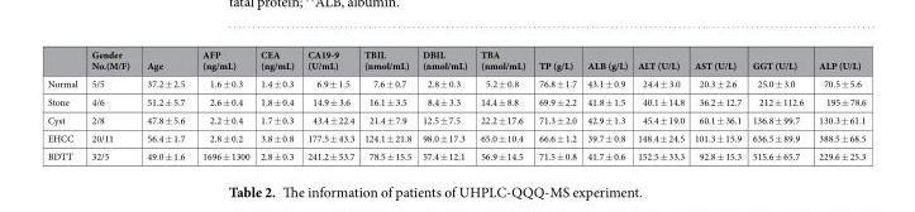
<table><thead><tr><td></td><td>Gender No.(M/F)</td><td>Age</td><td>AFP (ng/mL)</td><td>CEA (ng/mL)</td><td>CA19-9 (U/mL)</td><td>TBIL (nmol/mL)</td><td>DBIL (nmol/mL)</td><td>TBA (nmol/mL)</td><td>TP (g/L)</td><td>ALB (g/L)</td><td>ALT (U/L)</td><td>AST (U/L)</td><td>GGT (U/L)</td><td>ALP (U/L)</td></tr></thead><tbody><tr><td>Normal</td><td>5/5</td><td>37.2 ± 2.5</td><td>1.6 ± 0.3</td><td>1.4 ± 0.3</td><td>6.9 ± 1.5</td><td>7.6 ± 0.7</td><td>2.8 ± 0.3</td><td>5.2 ± 0.8</td><td>76.8 ± 1.7</td><td>43.1 ± 0.9</td><td>24.4 ± 3.0</td><td>20.3 ± 2.6</td><td>25.0 ± 3.0</td><td>70.5 ± 5.6</td></tr><tr><td>Stone</td><td>4/6</td><td>51.2 ± 5.7</td><td>2.6 ± 0.4</td><td>1.8 ± 0.4</td><td>14.9 ± 3.6</td><td>16.1 ± 3.5</td><td>8.4 ± 3.3</td><td>14.4 ± 8.8</td><td>69.9 ± 2.2</td><td>41.8 ± 1.5</td><td>40.1 ± 14.8</td><td>36.2 ± 12.7</td><td>212 ± 112.6</td><td>195 ± 78.6</td></tr><tr><td>Cyst</td><td>2/8</td><td>47.8 ± 5.6</td><td>2.2 ± 0.4</td><td>1.7 ± 0.3</td><td>43.4 ± 22.4</td><td>21.4 ± 7.9</td><td>12.5 ± 7.5</td><td>22.2 ± 17.6</td><td>71.3 ± 2.0</td><td>42.9 ± 1.3</td><td>45.4 ± 19.0</td><td>60.1 ± 36.1</td><td>136.8 ± 99.7</td><td>130.3 ± 61.1</td></tr><tr><td>EHCC</td><td>20/11</td><td>56.4 ± 1.7</td><td>2.8 ± 0.2</td><td>3.8 ± 0.8</td><td>177.5 ± 43.3</td><td>124.1 ± 21.8</td><td>98.0 ± 17.3</td><td>65.0 ± 10.4</td><td>66.6 ± 1.2</td><td>39.7 ± 0.8</td><td>148.4 ± 24.5</td><td>101.3 ± 15.9</td><td>636.5 ± 89.9</td><td>388.5 ± 68.5</td></tr><tr><td>BDTT</td><td>32/5</td><td>49.0 ± 1.6</td><td>1696 ± 1300</td><td>2.8 ± 0.3</td><td>241.2 ± 53.7</td><td>78.5 ± 15.5</td><td>57.4 ± 12.1</td><td>56.9 ± 14.5</td><td>71.5 ± 0.8</td><td>41.7 ± 0.6</td><td>152.5 ± 33.3</td><td>92.8 ± 15.3</td><td>515.6 ± 65.7</td><td>229.6 ± 25.3</td></tr></tbody></table>